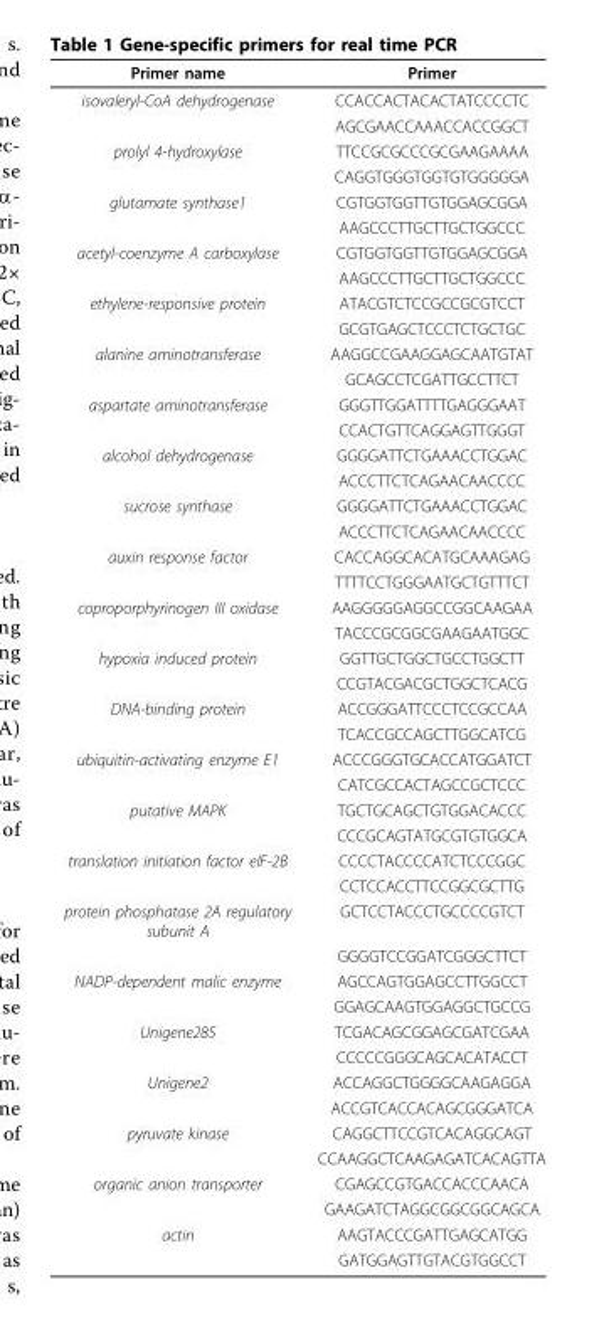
<table><thead><tr><td>Primer name</td><td>Primer</td></tr></thead><tbody><tr><td rowspan="2">isovaleryl-CoA dehydrogenase</td><td>CCACCACTACACTATCCCCTC</td></tr><tr><td>AGCGAACCAAACCACCGGCT</td></tr><tr><td rowspan="2">prolyl 4-hydroxylase</td><td>TTCCGCGCCCGCGAAGAAAA</td></tr><tr><td>CAGGTGGGTGGTGTGGGGGA</td></tr><tr><td rowspan="2">glutamate synthase1</td><td>CGTGGTGGTTGTGGAGCGGA</td></tr><tr><td>AAGCCCTTGCTTGCTGGCCC</td></tr><tr><td rowspan="2">acetyl-coenzyme A carboxylase</td><td>CGTGGTGGTTGTGGAGCGGA</td></tr><tr><td>AAGCCCTTGCTTGCTGGCCC</td></tr><tr><td rowspan="2">ethylene-responsive protein</td><td>ATACGTCTCCGCCGCGTCCT</td></tr><tr><td>GCGTGAGCTCCCTCTGCTGC</td></tr><tr><td rowspan="2">alanine aminotransferase</td><td>AAGGCCGAAGGAGCAATGTAT</td></tr><tr><td>GCAGCCTCGATTGCCTTCT</td></tr><tr><td rowspan="2">aspartate aminotransferase</td><td>GGGTTGGATTTTGAGGGAAT</td></tr><tr><td>CCACTGTTCAGGAGTTGGGT</td></tr><tr><td rowspan="2">alcohol dehydrogenase</td><td>GGGGATTCTGAAACCTGGAC</td></tr><tr><td>ACCCTTCTCAGAACAACCCC</td></tr><tr><td rowspan="2">sucrose synthase</td><td>GGGGATTCTGAAACCTGGAC</td></tr><tr><td>ACCCTTCTCAGAACAACCCC</td></tr><tr><td rowspan="2">auxin response factor</td><td>CACCAGGCACATGCAAAGAG</td></tr><tr><td>TTTTCCTGGGAATGCTGTTTCT</td></tr><tr><td rowspan="2">coproporphyrinogen III oxidase</td><td>AAGGGGGAGGCCGGCAAGAA</td></tr><tr><td>TACCCGCGGCGAAGAATGGC</td></tr><tr><td rowspan="2">hypoxia induced protein</td><td>GGTTGCTGGCTGCCTGGCTT</td></tr><tr><td>CCGTACGACGCTGGCTCACG</td></tr><tr><td rowspan="2">DNA-binding protein</td><td>ACCGGGATTCCCTCCGCCAA</td></tr><tr><td>TCACCGCCAGCTTGGCATCG</td></tr><tr><td rowspan="2">ubiquitin-activating enzyme E1</td><td>ACCCGGGTGCACCATGGATCT</td></tr><tr><td>CATCGCCACTAGCCGCTCCC</td></tr><tr><td rowspan="2">putative MAPK</td><td>TGCTGCAGCTGTGGACACCC</td></tr><tr><td>CCCGCAGTATGCGTGTGGCA</td></tr><tr><td rowspan="2">translation initiation factor eIF-2B</td><td>CCCCTACCCCATCTCCCGGC</td></tr><tr><td>CCTCCACCTTCCGGCGCTTG</td></tr><tr><td rowspan="2">protein phosphatase 2A regulatory subunit A</td><td>GCTCCTACCCTGCCCCGTCT</td></tr><tr><td>GGGGTCCGGATCGGGCTTCT</td></tr><tr><td rowspan="2">NADP-dependent malic enzyme</td><td>AGCCAGTGGAGCCTTGGCCT</td></tr><tr><td>GGAGCAAGTGGAGGCTGCCG</td></tr><tr><td rowspan="2">Unigene285</td><td>TCGACAGCGGAGCGATCGAA</td></tr><tr><td>CCCCCGGGCAGCACATACCT</td></tr><tr><td rowspan="2">Unigene2</td><td>ACCAGGCTGGGGCAAGAGGA</td></tr><tr><td>ACCGTCACCACAGCGGGATCA</td></tr><tr><td rowspan="2">pyruvate kinase</td><td>CAGGCTTCCGTCACAGGCAGT</td></tr><tr><td>CCAAGGCTCAAGAGATCACAGTTA</td></tr><tr><td rowspan="2">organic anion transporter</td><td>CGAGCCGTGACCACCCAACA</td></tr><tr><td>GAAGATCTAGGCGGCGGCAGCA</td></tr><tr><td rowspan="2">actin</td><td>AAGTACCCGATTGAGCATGG</td></tr><tr><td>GATGGAGTTGTACGTGGCCT</td></tr></tbody></table>